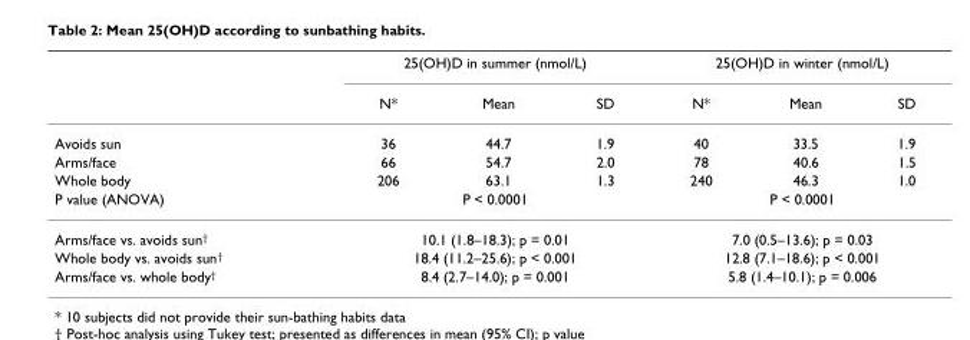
<table><thead><tr><td rowspan="2"></td><td colspan="3">25(OH)D in summer (nmol/L)</td><td colspan="3">25(OH)D in winter (nmol/L)</td></tr><tr><td>N*</td><td>Mean</td><td>SD</td><td>N*</td><td>Mean</td><td>SD</td></tr></thead><tbody><tr><td>Avoids sun</td><td>36</td><td>44.7</td><td>1.9</td><td>40</td><td>33.5</td><td>1.9</td></tr><tr><td>Arms/face</td><td>66</td><td>54.7</td><td>2.0</td><td>78</td><td>40.6</td><td>1.5</td></tr><tr><td>Whole body</td><td>206</td><td>63.1</td><td>1.3</td><td>240</td><td>46.3</td><td>1.0</td></tr><tr><td>P value (ANOVA)</td><td colspan="3">P &lt; 0.0001</td><td colspan="3">P &lt; 0.0001</td></tr><tr><td>Arms/face vs. avoids sun<sup>†</sup></td><td colspan="3">10.1 (1.8–18.3); p = 0.01</td><td colspan="3">7.0 (0.5–13.6); p = 0.03</td></tr><tr><td>Whole body vs. avoids sun<sup>†</sup></td><td colspan="3">18.4 (11.2–25.6); p &lt; 0.001</td><td colspan="3">12.8 (7.1–18.6); p &lt; 0.001</td></tr><tr><td>Arms/face vs. whole body<sup>†</sup></td><td colspan="3">8.4 (2.7–14.0); p = 0.001</td><td colspan="3">5.8 (1.4–10.1); p = 0.006</td></tr></tbody></table>